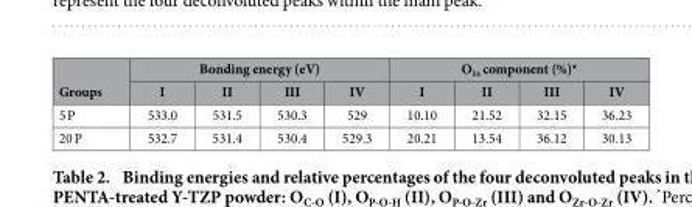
<table><thead><tr><td rowspan="2">Groups</td><td colspan="4">Bonding energy (eV)</td><td colspan="4">O<sub>1s</sub> component (%)*</td></tr><tr><td>I</td><td>II</td><td>III</td><td>IV</td><td>I</td><td>II</td><td>III</td><td>IV</td></tr></thead><tbody><tr><td>5 P</td><td>533.0</td><td>531.5</td><td>530.3</td><td>529</td><td>10.10</td><td>21.52</td><td>32.15</td><td>36.23</td></tr><tr><td>20 P</td><td>532.7</td><td>531.4</td><td>530.4</td><td>529.3</td><td>20.21</td><td>13.54</td><td>36.12</td><td>30.13</td></tr></tbody></table>